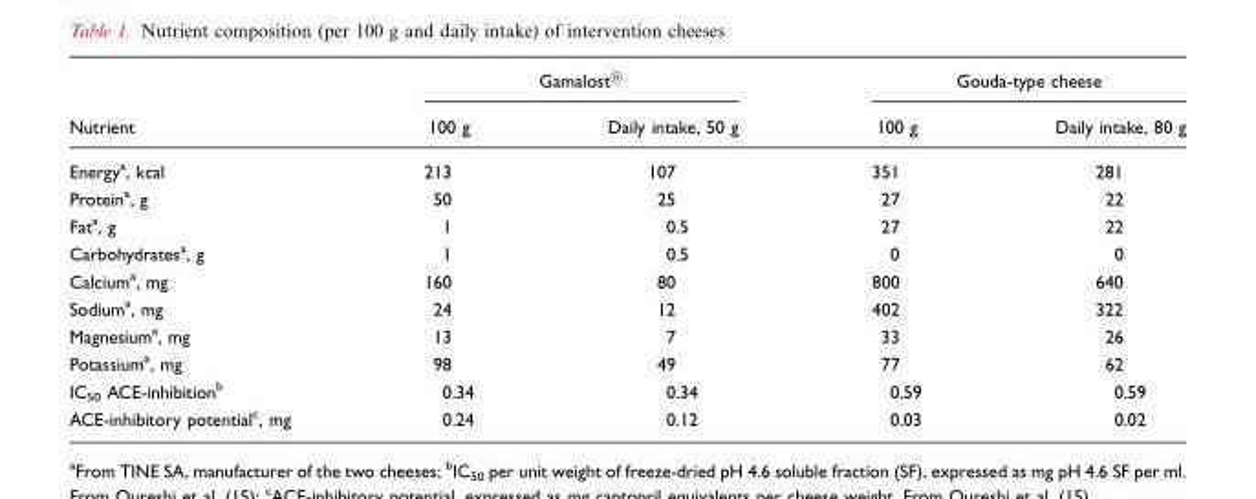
<table><thead><tr><td rowspan="2">Nutrient</td><td colspan="2">Gamalost†</td><td colspan="2">Gouda-type cheese</td></tr><tr><td>100 g</td><td>Daily intake, 50 g</td><td>100 g</td><td>Daily intake, 80 g</td></tr></thead><tbody><tr><td>Energy<sup>a</sup>, kcal</td><td>213</td><td>107</td><td>351</td><td>281</td></tr><tr><td>Protein<sup>a</sup>, g</td><td>50</td><td>25</td><td>27</td><td>22</td></tr><tr><td>Fat<sup>a</sup>, g</td><td>1</td><td>0.5</td><td>27</td><td>22</td></tr><tr><td>Carbohydrates<sup>a</sup>, g</td><td>1</td><td>0.5</td><td>0</td><td>0</td></tr><tr><td>Calcium<sup>a</sup>, mg</td><td>160</td><td>80</td><td>800</td><td>640</td></tr><tr><td>Sodium<sup>a</sup>, mg</td><td>24</td><td>12</td><td>402</td><td>322</td></tr><tr><td>Magnesium<sup>a</sup>, mg</td><td>13</td><td>7</td><td>33</td><td>26</td></tr><tr><td>Potassium<sup>a</sup>, mg</td><td>98</td><td>49</td><td>77</td><td>62</td></tr><tr><td>IC<sub>50</sub> ACE-inhibition<sup>b</sup></td><td>0.34</td><td>0.34</td><td>0.59</td><td>0.59</td></tr><tr><td>ACE-inhibitory potential<sup>c</sup>, mg</td><td>0.24</td><td>0.12</td><td>0.03</td><td>0.02</td></tr></tbody></table>